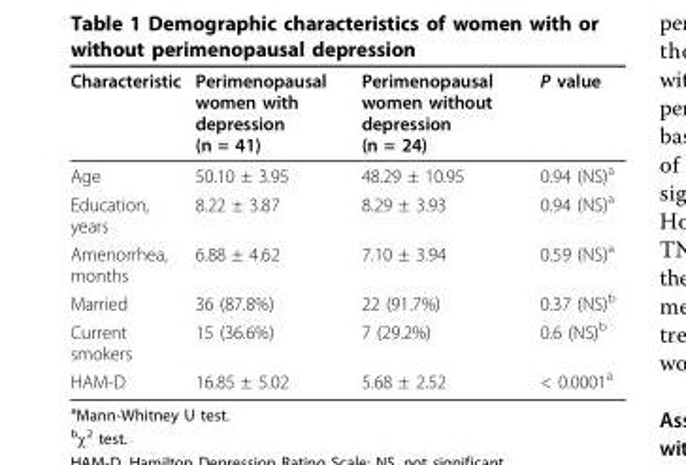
<table><thead><tr><td>Characteristic</td><td>Perimenopausal women with depression (n = 41)</td><td>Perimenopausal women without depression (n = 24)</td><td>P value</td></tr></thead><tbody><tr><td>Age</td><td>50.10 ± 3.95</td><td>48.29 ± 10.95</td><td>0.94 (NS)<sup>a</sup></td></tr><tr><td>Education, years</td><td>8.22 ± 3.87</td><td>8.29 ± 3.93</td><td>0.94 (NS)<sup>a</sup></td></tr><tr><td>Amenorrhea, months</td><td>6.88 ± 4.62</td><td>7.10 ± 3.94</td><td>0.59 (NS)<sup>a</sup></td></tr><tr><td>Married</td><td>36 (87.8%)</td><td>22 (91.7%)</td><td>0.37 (NS)<sup>b</sup></td></tr><tr><td>Current smokers</td><td>15 (36.6%)</td><td>7 (29.2%)</td><td>0.6 (NS)<sup>b</sup></td></tr><tr><td>HAM-D</td><td>16.85 ± 5.02</td><td>5.68 ± 2.52</td><td>&lt; 0.0001<sup>a</sup></td></tr></tbody></table>